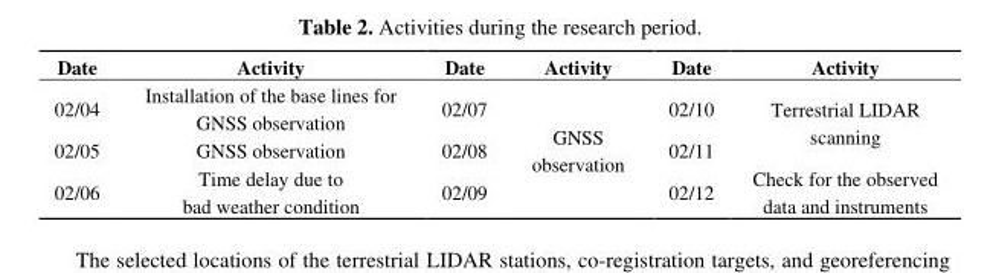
<table><thead><tr><td>Date</td><td>Activity</td><td>Date</td><td>Activity</td><td>Date</td><td>Activity</td></tr></thead><tbody><tr><td>02/04</td><td>Installation of the base lines for GNSS observation</td><td>02/07</td><td rowspan="3">GNSS observation</td><td>02/10</td><td rowspan="2">Terrestrial LIDAR scanning</td></tr><tr><td>02/05</td><td>GNSS observation</td><td>02/08</td><td>02/11</td></tr><tr><td>02/06</td><td>Time delay due to bad weather condition</td><td>02/09</td><td>02/12</td><td>Check for the observed data and instruments</td></tr></tbody></table>